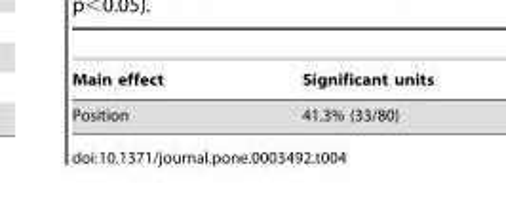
<table><thead><tr><td>Main effect</td><td>Significant units</td></tr></thead><tbody><tr><td>Position</td><td>41.3% (33/80)</td></tr></tbody></table>